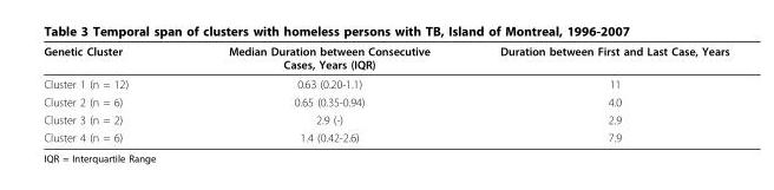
<table><thead><tr><td>Genetic Cluster</td><td>Median Duration between Consecutive Cases, Years (IQR)</td><td>Duration between First and Last Case, Years</td></tr></thead><tbody><tr><td>Cluster 1 (n = 12)</td><td>0.63 (0.20-1.1)</td><td>11</td></tr><tr><td>Cluster 2 (n = 6)</td><td>0.65 (0.35-0.94)</td><td>4.0</td></tr><tr><td>Cluster 3 (n = 2)</td><td>2.9 (-)</td><td>2.9</td></tr><tr><td>Cluster 4 (n = 6)</td><td>1.4 (0.42-2.6)</td><td>7.9</td></tr></tbody></table>